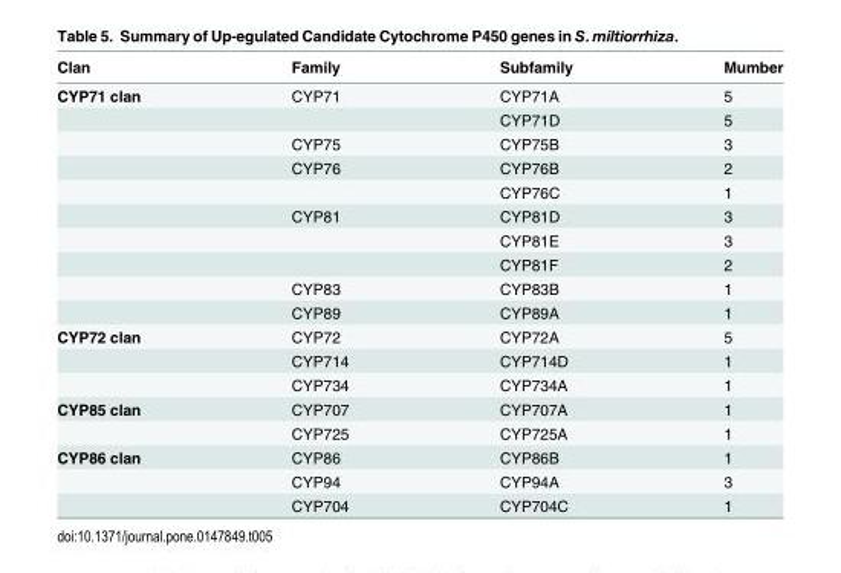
<table><thead><tr><td>Clan</td><td>Family</td><td>Subfamily</td><td>Mumber</td></tr></thead><tbody><tr><td rowspan="10">CYP71 clan</td><td>CYP71</td><td>CYP71A</td><td>5</td></tr><tr><td></td><td>CYP71D</td><td>5</td></tr><tr><td>CYP75</td><td>CYP75B</td><td>3</td></tr><tr><td>CYP76</td><td>CYP76B</td><td>2</td></tr><tr><td></td><td>CYP76C</td><td>1</td></tr><tr><td>CYP81</td><td>CYP81D</td><td>3</td></tr><tr><td></td><td>CYP81E</td><td>3</td></tr><tr><td></td><td>CYP81F</td><td>2</td></tr><tr><td>CYP83</td><td>CYP83B</td><td>1</td></tr><tr><td>CYP89</td><td>CYP89A</td><td>1</td></tr><tr><td rowspan="3">CYP72 clan</td><td>CYP72</td><td>CYP72A</td><td>5</td></tr><tr><td>CYP714</td><td>CYP714D</td><td>1</td></tr><tr><td>CYP734</td><td>CYP734A</td><td>1</td></tr><tr><td rowspan="2">CYP85 clan</td><td>CYP707</td><td>CYP707A</td><td>1</td></tr><tr><td>CYP725</td><td>CYP725A</td><td>1</td></tr><tr><td rowspan="3">CYP86 clan</td><td>CYP86</td><td>CYP86B</td><td>1</td></tr><tr><td>CYP94</td><td>CYP94A</td><td>3</td></tr><tr><td>CYP704</td><td>CYP704C</td><td>1</td></tr></tbody></table>